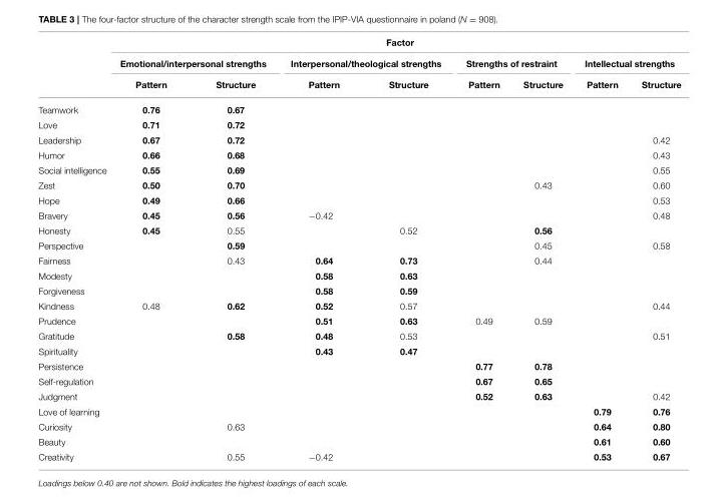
<table><thead><tr><td rowspan="3"></td><td colspan="8">Factor</td></tr><tr><td colspan="2">Emotional/interpersonal strengths</td><td colspan="2">Interpersonal/theological strengths</td><td colspan="2">Strengths of restraint</td><td colspan="2">Intellectual strengths</td></tr><tr><td>Pattern</td><td>Structure</td><td>Pattern</td><td>Structure</td><td>Pattern</td><td>Structure</td><td>Pattern</td><td>Structure</td></tr></thead><tbody><tr><td>Teamwork</td><td>0.76</td><td>0.67</td><td></td><td></td><td></td><td></td><td></td><td></td></tr><tr><td>Love</td><td>0.71</td><td>0.72</td><td></td><td></td><td></td><td></td><td></td><td></td></tr><tr><td>Leadership</td><td>0.67</td><td>0.72</td><td></td><td></td><td></td><td></td><td></td><td>0.42</td></tr><tr><td>Humor</td><td>0.66</td><td>0.68</td><td></td><td></td><td></td><td></td><td></td><td>0.43</td></tr><tr><td>Social intelligence</td><td>0.55</td><td>0.69</td><td></td><td></td><td></td><td></td><td></td><td>0.55</td></tr><tr><td>Zest</td><td>0.50</td><td>0.70</td><td></td><td></td><td></td><td>0.43</td><td></td><td>0.60</td></tr><tr><td>Hope</td><td>0.49</td><td>0.66</td><td></td><td></td><td></td><td></td><td></td><td>0.53</td></tr><tr><td>Bravery</td><td>0.45</td><td>0.56</td><td>−0.42</td><td></td><td></td><td></td><td></td><td>0.48</td></tr><tr><td>Honesty</td><td>0.45</td><td>0.55</td><td></td><td>0.52</td><td></td><td>0.56</td><td></td><td></td></tr><tr><td>Perspective</td><td></td><td>0.59</td><td></td><td></td><td></td><td>0.45</td><td></td><td>0.58</td></tr><tr><td>Fairness</td><td></td><td>0.43</td><td>0.64</td><td>0.73</td><td></td><td>0.44</td><td></td><td></td></tr><tr><td>Modesty</td><td></td><td></td><td>0.58</td><td>0.63</td><td></td><td></td><td></td><td></td></tr><tr><td>Forgiveness</td><td></td><td></td><td>0.58</td><td>0.59</td><td></td><td></td><td></td><td></td></tr><tr><td>Kindness</td><td>0.48</td><td>0.62</td><td>0.52</td><td>0.57</td><td></td><td></td><td></td><td>0.44</td></tr><tr><td>Prudence</td><td></td><td></td><td>0.51</td><td>0.63</td><td>0.49</td><td>0.59</td><td></td><td></td></tr><tr><td>Gratitude</td><td></td><td>0.58</td><td>0.48</td><td>0.53</td><td></td><td></td><td></td><td>0.51</td></tr><tr><td>Spirituality</td><td></td><td></td><td>0.43</td><td>0.47</td><td></td><td></td><td></td><td></td></tr><tr><td>Persistence</td><td></td><td></td><td></td><td></td><td>0.77</td><td>0.78</td><td></td><td></td></tr><tr><td>Self-regulation</td><td></td><td></td><td></td><td></td><td>0.67</td><td>0.65</td><td></td><td></td></tr><tr><td>Judgment</td><td></td><td></td><td></td><td></td><td>0.52</td><td>0.63</td><td></td><td>0.42</td></tr><tr><td>Love of learning</td><td></td><td></td><td></td><td></td><td></td><td></td><td>0.79</td><td>0.76</td></tr><tr><td>Curiosity</td><td></td><td>0.63</td><td></td><td></td><td></td><td></td><td>0.64</td><td>0.80</td></tr><tr><td>Beauty</td><td></td><td></td><td></td><td></td><td></td><td></td><td>0.61</td><td>0.60</td></tr><tr><td>Creativity</td><td></td><td>0.55</td><td>−0.42</td><td></td><td></td><td></td><td>0.53</td><td>0.67</td></tr></tbody></table>